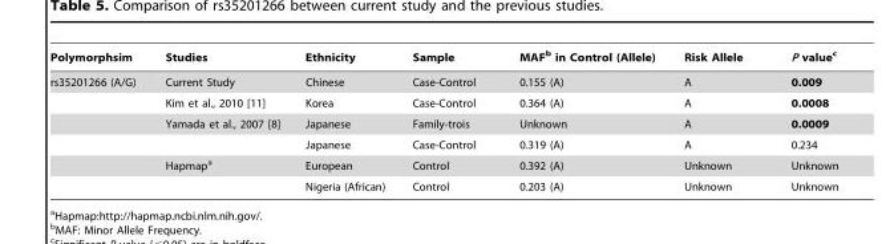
<table><thead><tr><td>Polymorphsim</td><td>Studies</td><td>Ethnicity</td><td>Sample</td><td>MAF<sup>b</sup> in Control (Allele)</td><td>Risk Allele</td><td>P value<sup>c</sup></td></tr></thead><tbody><tr><td rowspan="6">rs35201266 (A/G)</td><td>Current Study</td><td>Chinese</td><td>Case-Control</td><td>0.155 (A)</td><td>A</td><td>0.009</td></tr><tr><td>Kim et al., 2010 [11]</td><td>Korea</td><td>Case-Control</td><td>0.364 (A)</td><td>A</td><td>0.0008</td></tr><tr><td>Yamada et al., 2007 [8]</td><td>Japanese</td><td>Family-trois</td><td>Unknown</td><td>A</td><td>0.0009</td></tr><tr><td></td><td>Japanese</td><td>Case-Control</td><td>0.319 (A)</td><td>A</td><td>0.234</td></tr><tr><td>Hapmap<sup>a</sup></td><td>European</td><td>Control</td><td>0.392 (A)</td><td>Unknown</td><td>Unknown</td></tr><tr><td></td><td>Nigeria (African)</td><td>Control</td><td>0.203 (A)</td><td>Unknown</td><td>Unknown</td></tr></tbody></table>